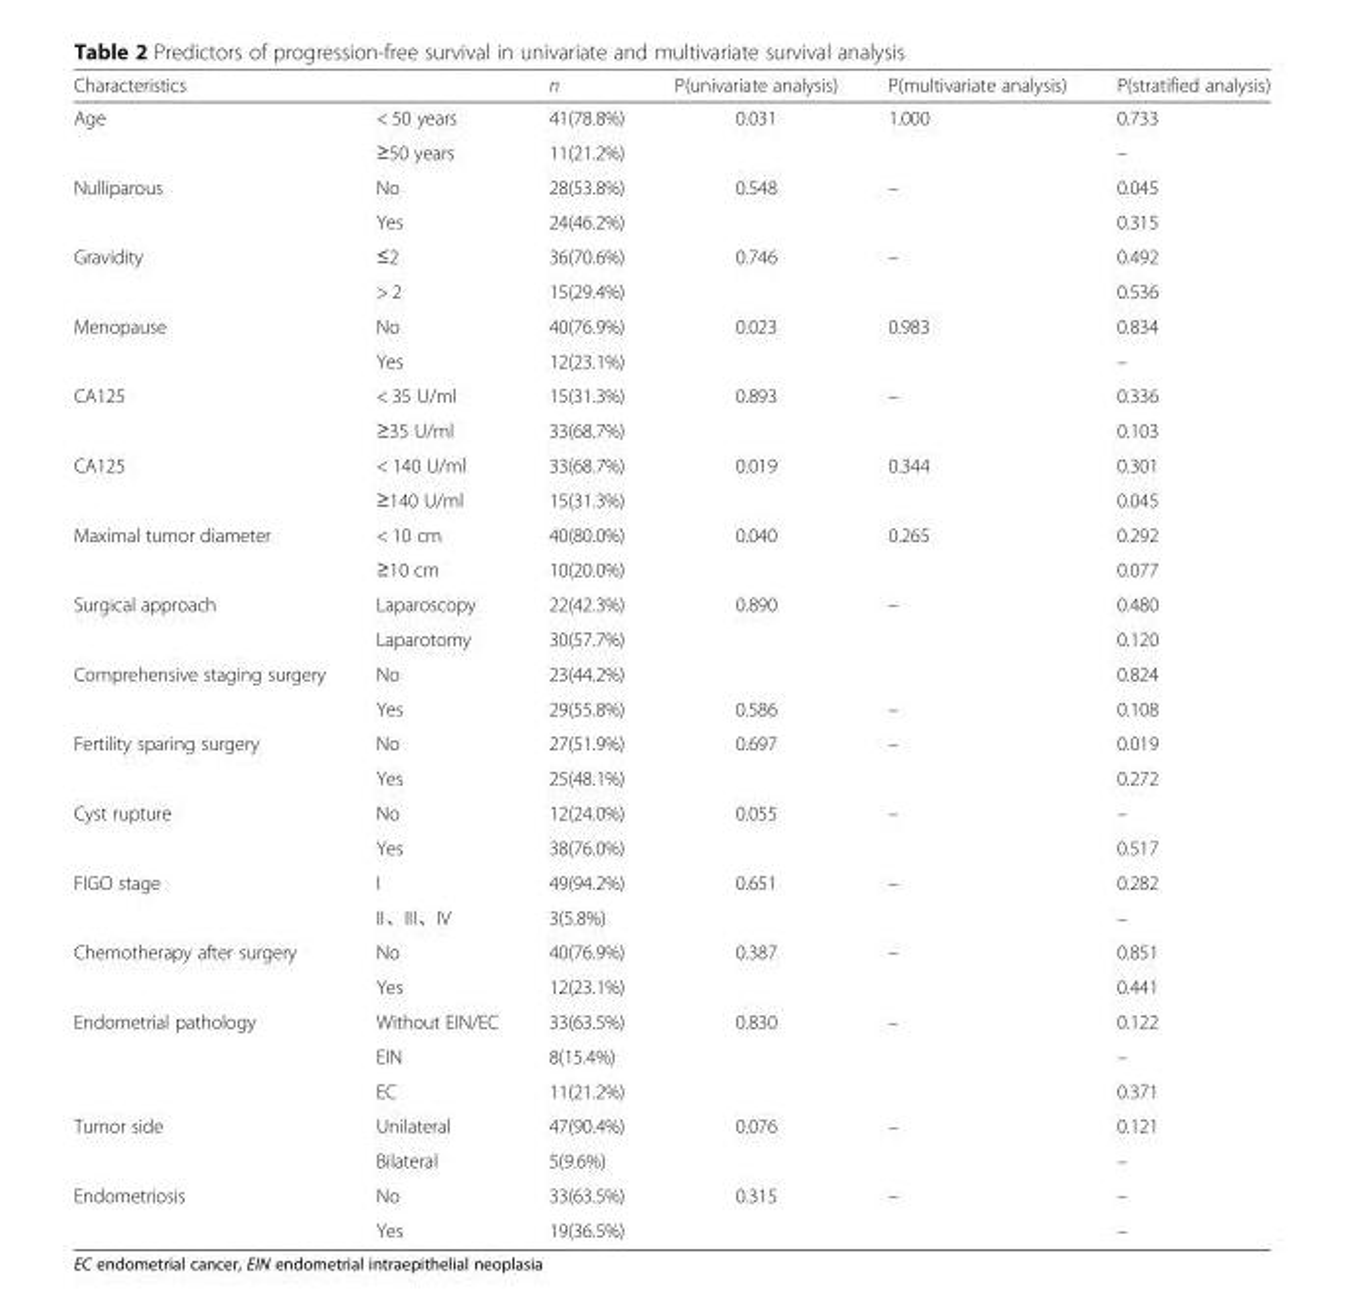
<table><thead><tr><td>Characteristics</td><td></td><td>n</td><td>P(univariate analysis)</td><td>P(multivariate analysis)</td><td>P(stratified analysis)</td></tr></thead><tbody><tr><td rowspan="2">Age</td><td>&lt; 50 years</td><td>41(78.8%)</td><td>0.031</td><td>1.000</td><td>0.733</td></tr><tr><td>≥50 years</td><td>11(21.2%)</td><td></td><td></td><td>–</td></tr><tr><td rowspan="2">Nulliparous</td><td>No</td><td>28(53.8%)</td><td>0.548</td><td>–</td><td>0.045</td></tr><tr><td>Yes</td><td>24(46.2%)</td><td></td><td></td><td>0.315</td></tr><tr><td rowspan="2">Gravidity</td><td>≤2</td><td>36(70.6%)</td><td>0.746</td><td>–</td><td>0.492</td></tr><tr><td>&gt; 2</td><td>15(29.4%)</td><td></td><td></td><td>0.536</td></tr><tr><td rowspan="2">Menopause</td><td>No</td><td>40(76.9%)</td><td>0.023</td><td>0.983</td><td>0.834</td></tr><tr><td>Yes</td><td>12(23.1%)</td><td></td><td></td><td>–</td></tr><tr><td rowspan="2">CA125</td><td>&lt; 35 U/ml</td><td>15(31.3%)</td><td>0.893</td><td>–</td><td>0.336</td></tr><tr><td>≥35 U/ml</td><td>33(68.7%)</td><td></td><td></td><td>0.103</td></tr><tr><td rowspan="2">CA125</td><td>&lt; 140 U/ml</td><td>33(68.7%)</td><td>0.019</td><td>0.344</td><td>0.301</td></tr><tr><td>≥140 U/ml</td><td>15(31.3%)</td><td></td><td></td><td>0.045</td></tr><tr><td rowspan="2">Maximal tumor diameter</td><td>&lt; 10 cm</td><td>40(80.0%)</td><td>0.040</td><td>0.265</td><td>0.292</td></tr><tr><td>≥10 cm</td><td>10(20.0%)</td><td></td><td></td><td>0.077</td></tr><tr><td rowspan="2">Surgical approach</td><td>Laparoscopy</td><td>22(42.3%)</td><td>0.890</td><td>–</td><td>0.480</td></tr><tr><td>Laparotomy</td><td>30(57.7%)</td><td></td><td></td><td>0.120</td></tr><tr><td rowspan="2">Comprehensive staging surgery</td><td>No</td><td>23(44.2%)</td><td></td><td></td><td>0.824</td></tr><tr><td>Yes</td><td>29(55.8%)</td><td>0.586</td><td>–</td><td>0.108</td></tr><tr><td rowspan="2">Fertility sparing surgery</td><td>No</td><td>27(51.9%)</td><td>0.697</td><td>–</td><td>0.019</td></tr><tr><td>Yes</td><td>25(48.1%)</td><td></td><td></td><td>0.272</td></tr><tr><td rowspan="2">Cyst rupture</td><td>No</td><td>12(24.0%)</td><td>0.055</td><td>–</td><td>–</td></tr><tr><td>Yes</td><td>38(76.0%)</td><td></td><td></td><td>0.517</td></tr><tr><td rowspan="2">FIGO stage</td><td>I</td><td>49(94.2%)</td><td>0.651</td><td>–</td><td>0.282</td></tr><tr><td>II、III、IV</td><td>3(5.8%)</td><td></td><td></td><td>–</td></tr><tr><td rowspan="2">Chemotherapy after surgery</td><td>No</td><td>40(76.9%)</td><td>0.387</td><td>–</td><td>0.851</td></tr><tr><td>Yes</td><td>12(23.1%)</td><td></td><td></td><td>0.441</td></tr><tr><td rowspan="3">Endometrial pathology</td><td>Without EIN/EC</td><td>33(63.5%)</td><td>0.830</td><td>–</td><td>0.122</td></tr><tr><td>EIN</td><td>8(15.4%)</td><td></td><td></td><td>–</td></tr><tr><td>EC</td><td>11(21.2%)</td><td></td><td></td><td>0.371</td></tr><tr><td rowspan="2">Tumor side</td><td>Unilateral</td><td>47(90.4%)</td><td>0.076</td><td>–</td><td>0.121</td></tr><tr><td>Bilateral</td><td>5(9.6%)</td><td></td><td></td><td>–</td></tr><tr><td rowspan="2">Endometriosis</td><td>No</td><td>33(63.5%)</td><td>0.315</td><td>–</td><td>–</td></tr><tr><td>Yes</td><td>19(36.5%)</td><td></td><td></td><td>–</td></tr></tbody></table>